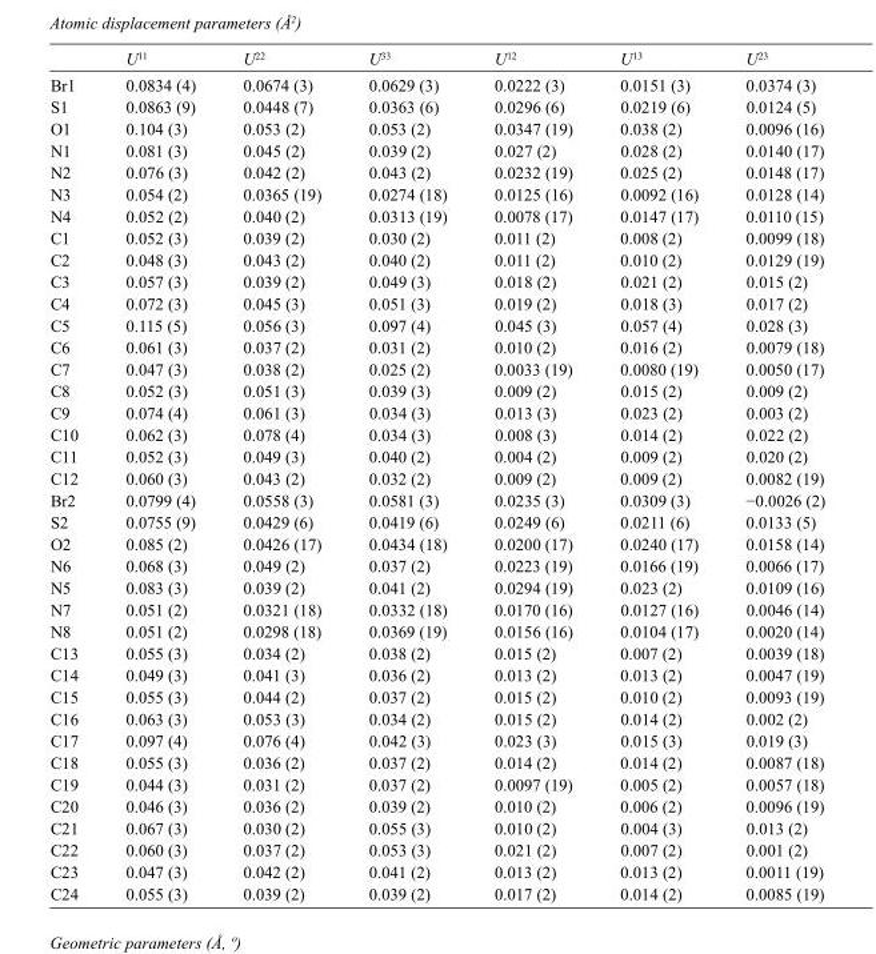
<table><thead><tr><td></td><td>U<sup>11</sup></td><td>U<sup>22</sup></td><td>U<sup>33</sup></td><td>U<sup>12</sup></td><td>U<sup>13</sup></td><td>U<sup>23</sup></td></tr></thead><tbody><tr><td>Br1</td><td>0.0834 (4)</td><td>0.0674 (3)</td><td>0.0629 (3)</td><td>0.0222 (3)</td><td>0.0151 (3)</td><td>0.0374 (3)</td></tr><tr><td>S1</td><td>0.0863 (9)</td><td>0.0448 (7)</td><td>0.0363 (6)</td><td>0.0296 (6)</td><td>0.0219 (6)</td><td>0.0124 (5)</td></tr><tr><td>O1</td><td>0.104 (3)</td><td>0.053 (2)</td><td>0.053 (2)</td><td>0.0347 (19)</td><td>0.038 (2)</td><td>0.0096 (16)</td></tr><tr><td>N1</td><td>0.081 (3)</td><td>0.045 (2)</td><td>0.039 (2)</td><td>0.027 (2)</td><td>0.028 (2)</td><td>0.0140 (17)</td></tr><tr><td>N2</td><td>0.076 (3)</td><td>0.042 (2)</td><td>0.043 (2)</td><td>0.0232 (19)</td><td>0.025 (2)</td><td>0.0148 (17)</td></tr><tr><td>N3</td><td>0.054 (2)</td><td>0.0365 (19)</td><td>0.0274 (18)</td><td>0.0125 (16)</td><td>0.0092 (16)</td><td>0.0128 (14)</td></tr><tr><td>N4</td><td>0.052 (2)</td><td>0.040 (2)</td><td>0.0313 (19)</td><td>0.0078 (17)</td><td>0.0147 (17)</td><td>0.0110 (15)</td></tr><tr><td>C1</td><td>0.052 (3)</td><td>0.039 (2)</td><td>0.030 (2)</td><td>0.011 (2)</td><td>0.008 (2)</td><td>0.0099 (18)</td></tr><tr><td>C2</td><td>0.048 (3)</td><td>0.043 (2)</td><td>0.040 (2)</td><td>0.011 (2)</td><td>0.010 (2)</td><td>0.0129 (19)</td></tr><tr><td>C3</td><td>0.057 (3)</td><td>0.039 (2)</td><td>0.049 (3)</td><td>0.018 (2)</td><td>0.021 (2)</td><td>0.015 (2)</td></tr><tr><td>C4</td><td>0.072 (3)</td><td>0.045 (3)</td><td>0.051 (3)</td><td>0.019 (2)</td><td>0.018 (3)</td><td>0.017 (2)</td></tr><tr><td>C5</td><td>0.115 (5)</td><td>0.056 (3)</td><td>0.097 (4)</td><td>0.045 (3)</td><td>0.057 (4)</td><td>0.028 (3)</td></tr><tr><td>C6</td><td>0.061 (3)</td><td>0.037 (2)</td><td>0.031 (2)</td><td>0.010 (2)</td><td>0.016 (2)</td><td>0.0079 (18)</td></tr><tr><td>C7</td><td>0.047 (3)</td><td>0.038 (2)</td><td>0.025 (2)</td><td>0.0033 (19)</td><td>0.0080 (19)</td><td>0.0050 (17)</td></tr><tr><td>C8</td><td>0.052 (3)</td><td>0.051 (3)</td><td>0.039 (3)</td><td>0.009 (2)</td><td>0.015 (2)</td><td>0.009 (2)</td></tr><tr><td>C9</td><td>0.074 (4)</td><td>0.061 (3)</td><td>0.034 (3)</td><td>0.013 (3)</td><td>0.023 (2)</td><td>0.003 (2)</td></tr><tr><td>C10</td><td>0.062 (3)</td><td>0.078 (4)</td><td>0.034 (3)</td><td>0.008 (3)</td><td>0.014 (2)</td><td>0.022 (2)</td></tr><tr><td>C11</td><td>0.052 (3)</td><td>0.049 (3)</td><td>0.040 (2)</td><td>0.004 (2)</td><td>0.009 (2)</td><td>0.020 (2)</td></tr><tr><td>C12</td><td>0.060 (3)</td><td>0.043 (2)</td><td>0.032 (2)</td><td>0.009 (2)</td><td>0.009 (2)</td><td>0.0082 (19)</td></tr><tr><td>Br2</td><td>0.0799 (4)</td><td>0.0558 (3)</td><td>0.0581 (3)</td><td>0.0235 (3)</td><td>0.0309 (3)</td><td>−0.0026 (2)</td></tr><tr><td>S2</td><td>0.0755 (9)</td><td>0.0429 (6)</td><td>0.0419 (6)</td><td>0.0249 (6)</td><td>0.0211 (6)</td><td>0.0133 (5)</td></tr><tr><td>O2</td><td>0.085 (2)</td><td>0.0426 (17)</td><td>0.0434 (18)</td><td>0.0200 (17)</td><td>0.0240 (17)</td><td>0.0158 (14)</td></tr><tr><td>N6</td><td>0.068 (3)</td><td>0.049 (2)</td><td>0.037 (2)</td><td>0.0223 (19)</td><td>0.0166 (19)</td><td>0.0066 (17)</td></tr><tr><td>N5</td><td>0.083 (3)</td><td>0.039 (2)</td><td>0.041 (2)</td><td>0.0294 (19)</td><td>0.023 (2)</td><td>0.0109 (16)</td></tr><tr><td>N7</td><td>0.051 (2)</td><td>0.0321 (18)</td><td>0.0332 (18)</td><td>0.0170 (16)</td><td>0.0127 (16)</td><td>0.0046 (14)</td></tr><tr><td>N8</td><td>0.051 (2)</td><td>0.0298 (18)</td><td>0.0369 (19)</td><td>0.0156 (16)</td><td>0.0104 (17)</td><td>0.0020 (14)</td></tr><tr><td>C13</td><td>0.055 (3)</td><td>0.034 (2)</td><td>0.038 (2)</td><td>0.015 (2)</td><td>0.007 (2)</td><td>0.0039 (18)</td></tr><tr><td>C14</td><td>0.049 (3)</td><td>0.041 (3)</td><td>0.036 (2)</td><td>0.013 (2)</td><td>0.013 (2)</td><td>0.0047 (19)</td></tr><tr><td>C15</td><td>0.055 (3)</td><td>0.044 (2)</td><td>0.037 (2)</td><td>0.015 (2)</td><td>0.010 (2)</td><td>0.0093 (19)</td></tr><tr><td>C16</td><td>0.063 (3)</td><td>0.053 (3)</td><td>0.034 (2)</td><td>0.015 (2)</td><td>0.014 (2)</td><td>0.002 (2)</td></tr><tr><td>C17</td><td>0.097 (4)</td><td>0.076 (4)</td><td>0.042 (3)</td><td>0.023 (3)</td><td>0.015 (3)</td><td>0.019 (3)</td></tr><tr><td>C18</td><td>0.055 (3)</td><td>0.036 (2)</td><td>0.037 (2)</td><td>0.014 (2)</td><td>0.014 (2)</td><td>0.0087 (18)</td></tr><tr><td>C19</td><td>0.044 (3)</td><td>0.031 (2)</td><td>0.037 (2)</td><td>0.0097 (19)</td><td>0.005 (2)</td><td>0.0057 (18)</td></tr><tr><td>C20</td><td>0.046 (3)</td><td>0.036 (2)</td><td>0.039 (2)</td><td>0.010 (2)</td><td>0.006 (2)</td><td>0.0096 (19)</td></tr><tr><td>C21</td><td>0.067 (3)</td><td>0.030 (2)</td><td>0.055 (3)</td><td>0.010 (2)</td><td>0.004 (3)</td><td>0.013 (2)</td></tr><tr><td>C22</td><td>0.060 (3)</td><td>0.037 (2)</td><td>0.053 (3)</td><td>0.021 (2)</td><td>0.007 (2)</td><td>0.001 (2)</td></tr><tr><td>C23</td><td>0.047 (3)</td><td>0.042 (2)</td><td>0.041 (2)</td><td>0.013 (2)</td><td>0.013 (2)</td><td>0.0011 (19)</td></tr><tr><td>C24</td><td>0.055 (3)</td><td>0.039 (2)</td><td>0.039 (2)</td><td>0.017 (2)</td><td>0.014 (2)</td><td>0.0085 (19)</td></tr></tbody></table>